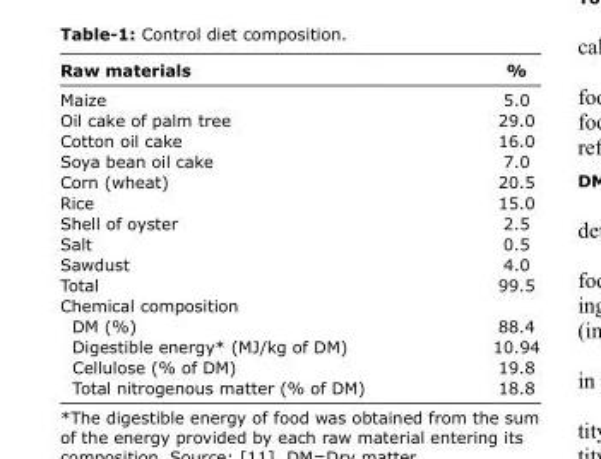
<table><thead><tr><td>Raw materials</td><td>%</td></tr></thead><tbody><tr><td>Maize</td><td>5.0</td></tr><tr><td>Oil cake of palm tree</td><td>29.0</td></tr><tr><td>Cotton oil cake</td><td>16.0</td></tr><tr><td>Soya bean oil cake</td><td>7.0</td></tr><tr><td>Corn (wheat)</td><td>20.5</td></tr><tr><td>Rice</td><td>15.0</td></tr><tr><td>Shell of oyster</td><td>2.5</td></tr><tr><td>Salt</td><td>0.5</td></tr><tr><td>Sawdust</td><td>4.0</td></tr><tr><td>Total</td><td>99.5</td></tr><tr><td colspan="2">Chemical composition</td></tr><tr><td>DM (%)</td><td>88.4</td></tr><tr><td>Digestible energy* (MJ/kg of DM)</td><td>10.94</td></tr><tr><td>Cellulose (% of DM)</td><td>19.8</td></tr><tr><td>Total nitrogenous matter (% of DM)</td><td>18.8</td></tr></tbody></table>